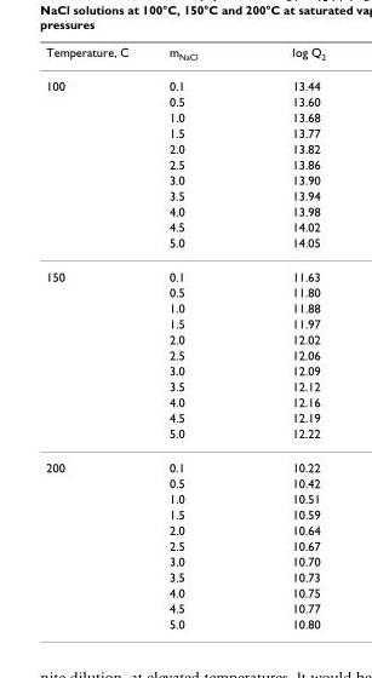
<table><thead><tr><td>Temperature, C</td><td>m<sub>NaCl</sub></td><td>log Q<sub>2</sub></td></tr></thead><tbody><tr><td rowspan="11">100</td><td>0.1</td><td>13.44</td></tr><tr><td>0.5</td><td>13.60</td></tr><tr><td>1.0</td><td>13.68</td></tr><tr><td>1.5</td><td>13.77</td></tr><tr><td>2.0</td><td>13.82</td></tr><tr><td>2.5</td><td>13.86</td></tr><tr><td>3.0</td><td>13.90</td></tr><tr><td>3.5</td><td>13.94</td></tr><tr><td>4.0</td><td>13.98</td></tr><tr><td>4.5</td><td>14.02</td></tr><tr><td>5.0</td><td>14.05</td></tr><tr><td rowspan="11">150</td><td>0.1</td><td>11.63</td></tr><tr><td>0.5</td><td>11.80</td></tr><tr><td>1.0</td><td>11.88</td></tr><tr><td>1.5</td><td>11.97</td></tr><tr><td>2.0</td><td>12.02</td></tr><tr><td>2.5</td><td>12.06</td></tr><tr><td>3.0</td><td>12.09</td></tr><tr><td>3.5</td><td>12.12</td></tr><tr><td>4.0</td><td>12.16</td></tr><tr><td>4.5</td><td>12.19</td></tr><tr><td>5.0</td><td>12.22</td></tr><tr><td rowspan="11">200</td><td>0.1</td><td>10.22</td></tr><tr><td>0.5</td><td>10.42</td></tr><tr><td>1.0</td><td>10.51</td></tr><tr><td>1.5</td><td>10.59</td></tr><tr><td>2.0</td><td>10.64</td></tr><tr><td>2.5</td><td>10.67</td></tr><tr><td>3.0</td><td>10.70</td></tr><tr><td>3.5</td><td>10.73</td></tr><tr><td>4.0</td><td>10.75</td></tr><tr><td>4.5</td><td>10.77</td></tr><tr><td>5.0</td><td>10.80</td></tr></tbody></table>